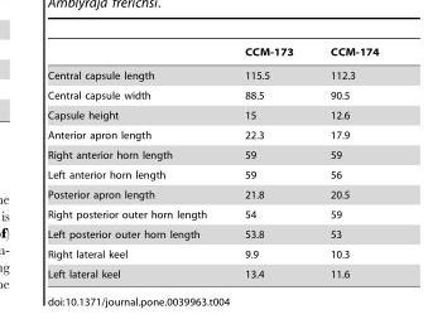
<table><thead><tr><td></td><td>CCM-173</td><td>CCM-174</td></tr></thead><tbody><tr><td>Central capsule length</td><td>115.5</td><td>112.3</td></tr><tr><td>Central capsule width</td><td>88.5</td><td>90.5</td></tr><tr><td>Capsule height</td><td>15</td><td>12.6</td></tr><tr><td>Anterior apron length</td><td>22.3</td><td>17.9</td></tr><tr><td>Right anterior horn length</td><td>59</td><td>59</td></tr><tr><td>Left anterior horn length</td><td>59</td><td>56</td></tr><tr><td>Posterior apron length</td><td>21.8</td><td>20.5</td></tr><tr><td>Right posterior outer horn length</td><td>54</td><td>59</td></tr><tr><td>Left posterior outer horn length</td><td>53.8</td><td>53</td></tr><tr><td>Right lateral keel</td><td>9.9</td><td>10.3</td></tr><tr><td>Left lateral keel</td><td>13.4</td><td>11.6</td></tr></tbody></table>